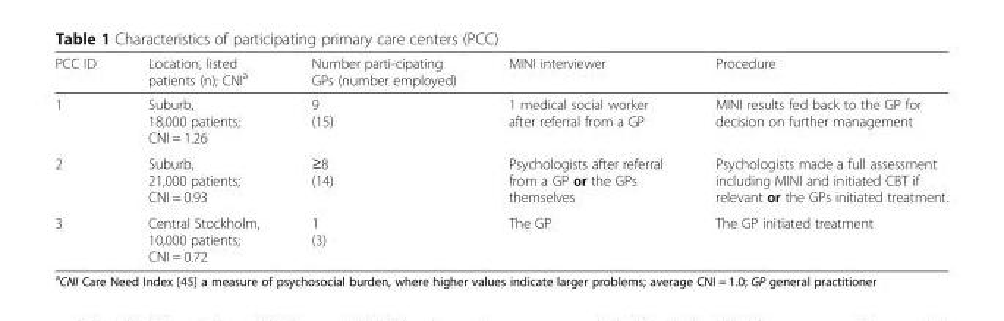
<table><thead><tr><td>PCC ID</td><td>Location, listed patients (n); CNI<sup>a</sup></td><td>Number parti-cipating GPs (number employed)</td><td>MINI interviewer</td><td>Procedure</td></tr></thead><tbody><tr><td>1</td><td>Suburb, 18,000 patients; CNI = 1.26</td><td>9 (15)</td><td>1 medical social worker after referral from a GP</td><td>MINI results fed back to the GP for decision on further management</td></tr><tr><td>2</td><td>Suburb, 21,000 patients; CNI = 0.93</td><td>≥8 (14)</td><td>Psychologists after referral from a GP or the GPs themselves</td><td>Psychologists made a full assessment including MINI and initiated CBT if relevant or the GPs initiated treatment.</td></tr><tr><td>3</td><td>Central Stockholm, 10,000 patients; CNI = 0.72</td><td>1 (3)</td><td>The GP</td><td>The GP initiated treatment</td></tr></tbody></table>